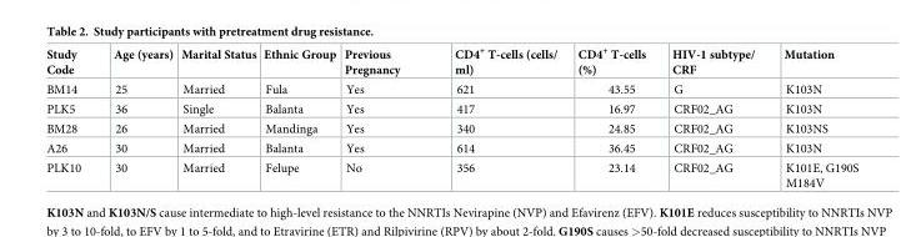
<table><thead><tr><td>Study Code</td><td>Age (years)</td><td>Marital Status</td><td>Ethnic Group</td><td>Previous Pregnancy</td><td>CD4<sup>+</sup> T-cells (cells/ ml)</td><td>CD4<sup>+</sup> T-cells (%)</td><td>HIV-1 subtype/ CRF</td><td>Mutation</td></tr></thead><tbody><tr><td>BM14</td><td>25</td><td>Married</td><td>Fula</td><td>Yes</td><td>621</td><td>43.55</td><td>G</td><td>K103N</td></tr><tr><td>PLK5</td><td>36</td><td>Single</td><td>Balanta</td><td>Yes</td><td>417</td><td>16.97</td><td>CRF02_AG</td><td>K103N</td></tr><tr><td>BM28</td><td>26</td><td>Married</td><td>Mandinga</td><td>Yes</td><td>340</td><td>24.85</td><td>CRF02_AG</td><td>K103NS</td></tr><tr><td>A26</td><td>30</td><td>Married</td><td>Balanta</td><td>Yes</td><td>614</td><td>36.45</td><td>CRF02_AG</td><td>K103N</td></tr><tr><td>PLK10</td><td>30</td><td>Married</td><td>Felupe</td><td>No</td><td>356</td><td>23.14</td><td>CRF02_AG</td><td>K101E, G190S M184V</td></tr></tbody></table>